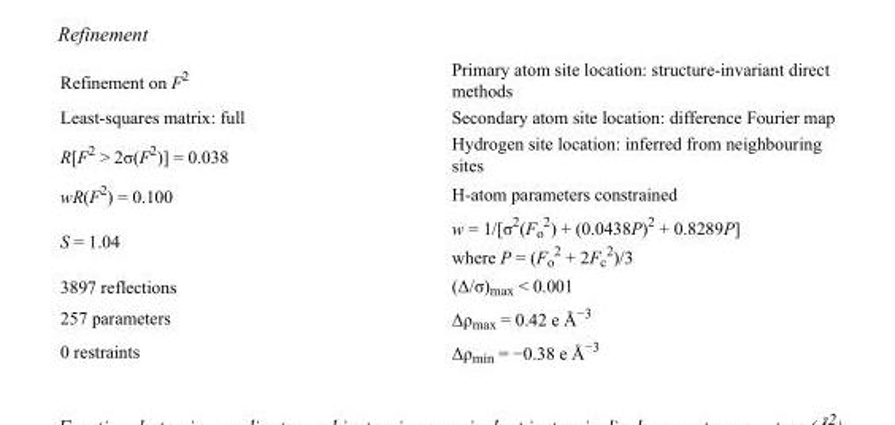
<table><tbody><tr><td>Refinement on F<sup>2</sup></td><td>Primary atom site location: structure-invariant direct methods</td></tr><tr><td>Least-squares matrix: full</td><td>Secondary atom site location: difference Fourier map</td></tr><tr><td>R[F<sup>2</sup> &gt; 2σ(F<sup>2</sup>)] = 0.038</td><td>Hydrogen site location: inferred from neighbouring sites</td></tr><tr><td>wR(F<sup>2</sup>) = 0.100</td><td>H-atom parameters constrained</td></tr><tr><td>S = 1.04</td><td>w = 1/[σ<sup>2</sup>(F<sub>o</sub> <sup>2</sup>) + (0.0438P)<sup>2</sup> + 0.8289P] where P = (F<sub>o</sub> <sup>2</sup> + 2F<sub>c</sub> <sup>2</sup>)/3</td></tr><tr><td>3897 reflections</td><td>(Δ/σ)<sub>max</sub> &lt; 0.001</td></tr><tr><td>257 parameters</td><td>Δρ<sub>max</sub> = 0.42 e Å<sup>−3</sup></td></tr><tr><td>0 restraints</td><td>Δρ<sub>min</sub> = −0.38 e Å<sup>−3</sup></td></tr></tbody></table>